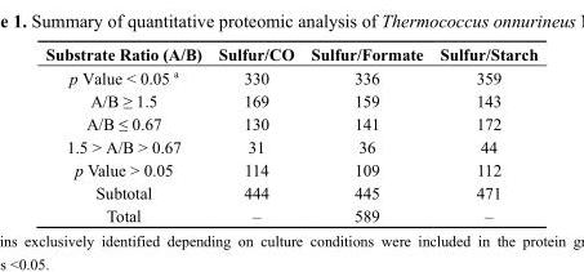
<table><thead><tr><td>Substrate Ratio (A/B)</td><td>Sulfur/CO</td><td>Sulfur/Formate</td><td>Sulfur/Starch</td></tr></thead><tbody><tr><td>p Value &lt; 0.05 <sup>a</sup></td><td>330</td><td>336</td><td>359</td></tr><tr><td>A/B ≥ 1.5</td><td>169</td><td>159</td><td>143</td></tr><tr><td>A/B ≤ 0.67</td><td>130</td><td>141</td><td>172</td></tr><tr><td>1.5 &gt; A/B &gt; 0.67</td><td>31</td><td>36</td><td>44</td></tr><tr><td>p Value &gt; 0.05</td><td>114</td><td>109</td><td>112</td></tr><tr><td>Subtotal</td><td>444</td><td>445</td><td>471</td></tr><tr><td>Total</td><td>–</td><td>589</td><td>–</td></tr></tbody></table>